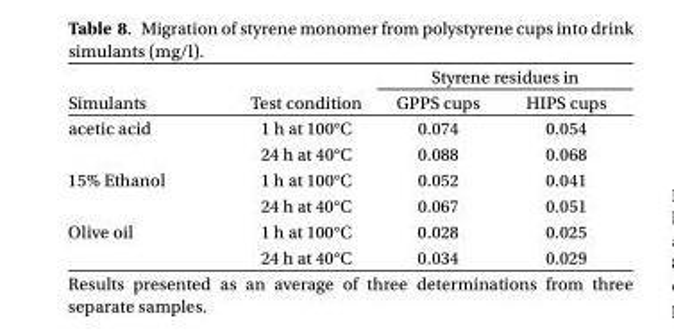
<table><thead><tr><td rowspan="2">Simulants</td><td rowspan="2">Test condition</td><td colspan="2">Styrene residues in</td></tr><tr><td>GPPS cups</td><td>HIPS cups</td></tr></thead><tbody><tr><td rowspan="2">acetic acid</td><td>1 h at 100°C</td><td>0.074</td><td>0.054</td></tr><tr><td>24 h at 40°C</td><td>0.088</td><td>0.068</td></tr><tr><td rowspan="2">15% Ethanol</td><td>1 h at 100°C</td><td>0.052</td><td>0.041</td></tr><tr><td>24 h at 40°C</td><td>0.067</td><td>0.051</td></tr><tr><td rowspan="2">Olive oil</td><td>1 h at 100°C</td><td>0.028</td><td>0.025</td></tr><tr><td>24 h at 40°C</td><td>0.034</td><td>0.029</td></tr></tbody></table>